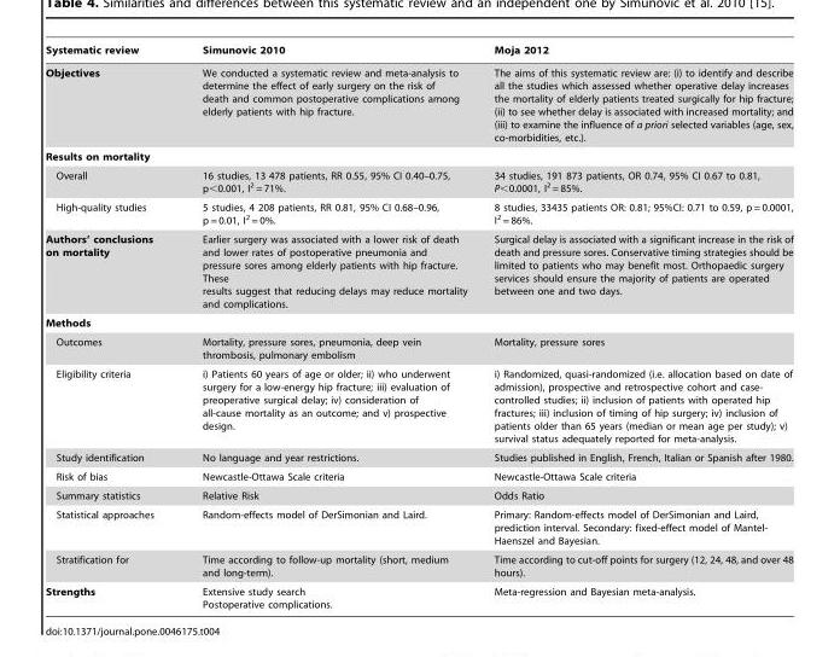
<table><thead><tr><td>Systematic review</td><td>Simunovic 2010</td><td>Moja 2012</td></tr></thead><tbody><tr><td>Objectives</td><td>We conducted a systematic review and meta-analysis to determine the effect of early surgery on the risk of death and common postoperative complications among elderly patients with hip fracture.</td><td>The aims of this systematic review are: (i) to identify and describe all the studies which assessed whether operative delay increases the mortality of elderly patients treated surgically for hip fracture; (ii) to see whether delay is associated with increased mortality; and (iii) to examine the influence of a priori selected variables (age, sex, co-morbidities, etc.).</td></tr><tr><td colspan="3">Results on mortality</td></tr><tr><td>Overall</td><td>16 studies, 13 478 patients, RR 0.55, 95% CI 0.40–0.75, p&lt;0.001, I<sup>2</sup> = 71%.</td><td>34 studies, 191 873 patients, OR 0.74, 95% CI 0.67 to 0.81, P&lt;0.0001, I<sup>2</sup> = 85%.</td></tr><tr><td>High-quality studies</td><td>5 studies, 4 208 patients, RR 0.81, 95% CI 0.68–0.96, p = 0.01, I<sup>2</sup> = 0%.</td><td>8 studies, 33435 patients OR: 0.81; 95%CI: 0.71 to 0.59, p = 0.0001, I<sup>2</sup> = 86%.</td></tr><tr><td>Authors’ conclusions on mortality</td><td>Earlier surgery was associated with a lower risk of death and lower rates of postoperative pneumonia and pressure sores among elderly patients with hip fracture. These results suggest that reducing delays may reduce mortality and complications.</td><td>Surgical delay is associated with a significant increase in the risk of death and pressure sores. Conservative timing strategies should be limited to patients who may benefit most. Orthopaedic surgery services should ensure the majority of patients are operated between one and two days.</td></tr><tr><td colspan="3">Methods</td></tr><tr><td>Outcomes</td><td>Mortality, pressure sores, pneumonia, deep vein thrombosis, pulmonary embolism</td><td>Mortality, pressure sores</td></tr><tr><td>Eligibility criteria</td><td>i) Patients 60 years of age or older; ii) who underwent surgery for a low-energy hip fracture; iii) evaluation of preoperative surgical delay; iv) consideration of all-cause mortality as an outcome; and v) prospective design.</td><td>i) Randomized, quasi-randomized (i.e. allocation based on date of admission), prospective and retrospective cohort and case- controlled studies; ii) inclusion of patients with operated hip fractures; iii) inclusion of timing of hip surgery; iv) inclusion of patients older than 65 years (median or mean age per study); v) survival status adequately reported for meta-analysis.</td></tr><tr><td>Study identification</td><td>No language and year restrictions.</td><td>Studies published in English, French, Italian or Spanish after 1980.</td></tr><tr><td>Risk of bias</td><td>Newcastle-Ottawa Scale criteria</td><td>Newcastle-Ottawa Scale criteria</td></tr><tr><td>Summary statistics</td><td>Relative Risk</td><td>Odds Ratio</td></tr><tr><td>Statistical approaches</td><td>Random-effects model of DerSimonian and Laird.</td><td>Primary: Random-effects model of DerSimonian and Laird, prediction interval. Secondary: fixed-effect model of Mantel- Haenszel and Bayesian.</td></tr><tr><td>Stratification for</td><td>Time according to follow-up mortality (short, medium and long-term).</td><td>Time according to cut-off points for surgery (12, 24, 48, and over 48 hours).</td></tr><tr><td>Strengths</td><td>Extensive study search Postoperative complications.</td><td>Meta-regression and Bayesian meta-analysis.</td></tr></tbody></table>